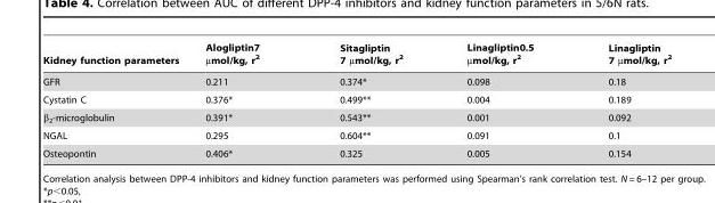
<table><thead><tr><td>Kidney function parameters</td><td>Alogliptin7 µmol/kg, r<sup>2</sup></td><td>Sitagliptin 7 µmol/kg, r<sup>2</sup></td><td>Linagliptin0.5 µmol/kg, r<sup>2</sup></td><td>Linagliptin 7 µmol/kg, r<sup>2</sup></td></tr></thead><tbody><tr><td>GFR</td><td>0.211</td><td>0.374*</td><td>0.098</td><td>0.18</td></tr><tr><td>Cystatin C</td><td>0.376*</td><td>0.499**</td><td>0.004</td><td>0.189</td></tr><tr><td>β<sub>2</sub>-microglobulin</td><td>0.391*</td><td>0.543**</td><td>0.001</td><td>0.092</td></tr><tr><td>NGAL</td><td>0.295</td><td>0.604**</td><td>0.091</td><td>0.1</td></tr><tr><td>Osteopontin</td><td>0.406*</td><td>0.325</td><td>0.005</td><td>0.154</td></tr></tbody></table>